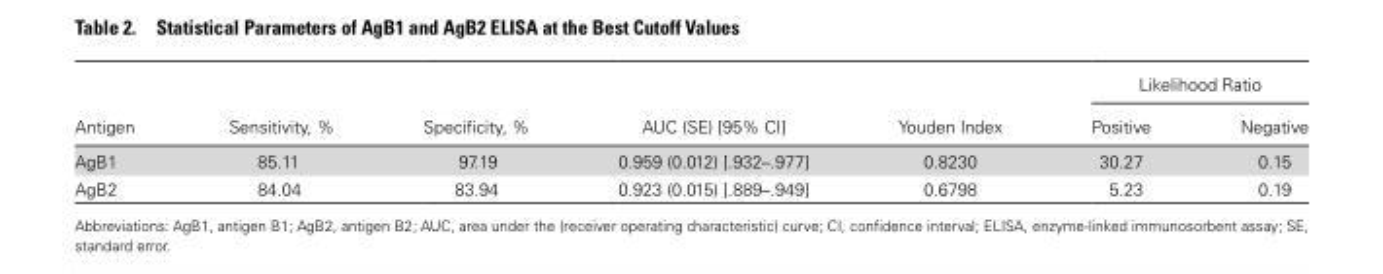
<table><thead><tr><td rowspan="2">Antigen</td><td rowspan="2">Sensitivity, %</td><td rowspan="2">Specificity, %</td><td rowspan="2">AUC (SE) [95% CI]</td><td rowspan="2">Youden Index</td><td colspan="2">Likelihood Ratio</td></tr><tr><td>Positive</td><td>Negative</td></tr></thead><tbody><tr><td>AgB1</td><td>85.11</td><td>97.19</td><td>0.959 (0.012) [.932–.977]</td><td>0.8230</td><td>30.27</td><td>0.15</td></tr><tr><td>AgB2</td><td>84.04</td><td>83.94</td><td>0.923 (0.015) [.889–.949]</td><td>0.6798</td><td>5.23</td><td>0.19</td></tr></tbody></table>